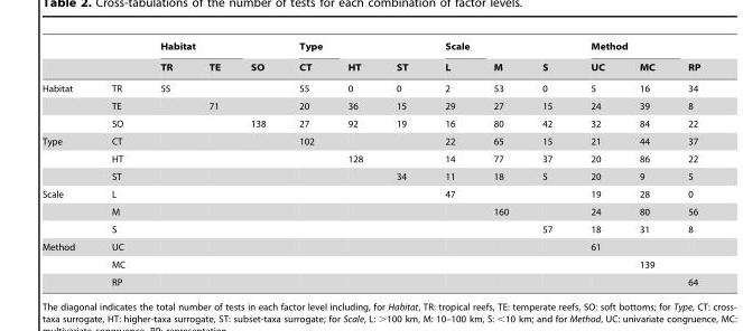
<table><thead><tr><td rowspan="2"></td><td rowspan="2"></td><td colspan="2">Habitat</td><td rowspan="2">SO</td><td rowspan="2">Type CT</td><td rowspan="2">HT</td><td rowspan="2">ST</td><td rowspan="2">Scale L</td><td rowspan="2">M</td><td rowspan="2">S</td><td colspan="2">Method</td><td rowspan="2">RP</td></tr><tr><td>TR</td><td>TE</td><td>UC</td><td>MC</td></tr></thead><tbody><tr><td rowspan="3">Habitat</td><td>TR</td><td>55</td><td></td><td></td><td>55</td><td>0</td><td>0</td><td>2</td><td>53</td><td>0</td><td>5</td><td>16</td><td>34</td></tr><tr><td>TE</td><td></td><td>71</td><td></td><td>20</td><td>36</td><td>15</td><td>29</td><td>27</td><td>15</td><td>24</td><td>39</td><td>8</td></tr><tr><td>SO</td><td></td><td></td><td>138</td><td>27</td><td>92</td><td>19</td><td>16</td><td>80</td><td>42</td><td>32</td><td>84</td><td>22</td></tr><tr><td rowspan="3">Type</td><td>CT</td><td></td><td></td><td></td><td>102</td><td></td><td></td><td>22</td><td>65</td><td>15</td><td>21</td><td>44</td><td>37</td></tr><tr><td>HT</td><td></td><td></td><td></td><td></td><td>128</td><td></td><td>14</td><td>77</td><td>37</td><td>20</td><td>86</td><td>22</td></tr><tr><td>ST</td><td></td><td></td><td></td><td></td><td></td><td>34</td><td>11</td><td>18</td><td>5</td><td>20</td><td>9</td><td>5</td></tr><tr><td rowspan="3">Scale</td><td>L</td><td></td><td></td><td></td><td></td><td></td><td></td><td>47</td><td></td><td></td><td>19</td><td>28</td><td>0</td></tr><tr><td>M</td><td></td><td></td><td></td><td></td><td></td><td></td><td></td><td>160</td><td></td><td>24</td><td>80</td><td>56</td></tr><tr><td>S</td><td></td><td></td><td></td><td></td><td></td><td></td><td></td><td></td><td>57</td><td>18</td><td>31</td><td>8</td></tr><tr><td rowspan="3">Method</td><td>UC</td><td></td><td></td><td></td><td></td><td></td><td></td><td></td><td></td><td></td><td>61</td><td></td><td></td></tr><tr><td>MC</td><td></td><td></td><td></td><td></td><td></td><td></td><td></td><td></td><td></td><td></td><td>139</td><td></td></tr><tr><td>RP</td><td></td><td></td><td></td><td></td><td></td><td></td><td></td><td></td><td></td><td></td><td></td><td>64</td></tr></tbody></table>